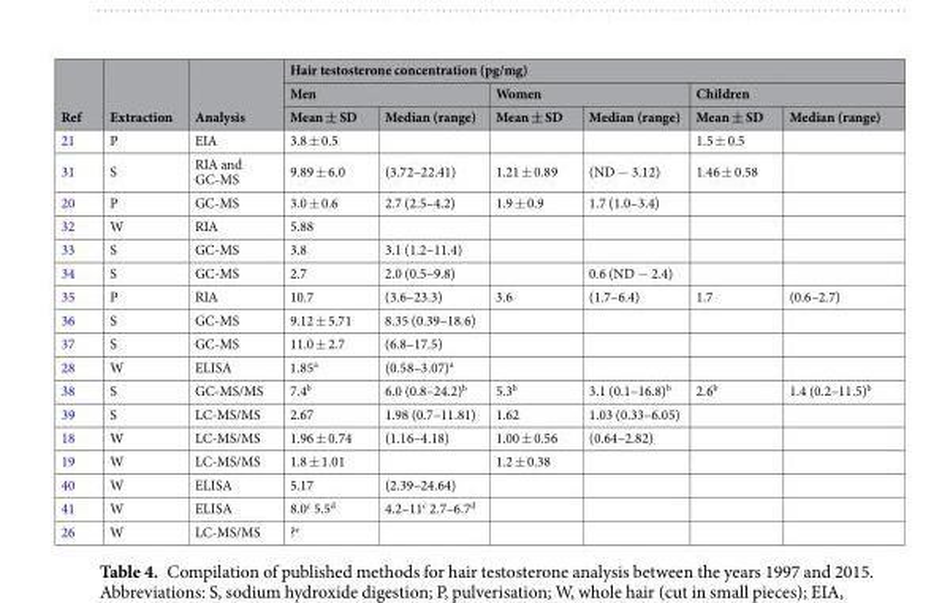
<table><thead><tr><td rowspan="3">Ref</td><td rowspan="3">Extraction</td><td rowspan="3">Analysis</td><td colspan="6">Hair testosterone concentration (pg/mg)</td></tr><tr><td colspan="2">Men</td><td colspan="2">Women</td><td colspan="2">Children</td></tr><tr><td>Mean ± SD</td><td>Median (range)</td><td>Mean ± SD</td><td>Median (range)</td><td>Mean ± SD</td><td>Median (range)</td></tr></thead><tbody><tr><td>21</td><td>P</td><td>EIA</td><td>3.8 ± 0.5</td><td></td><td></td><td></td><td>1.5 ± 0.5</td><td></td></tr><tr><td>31</td><td>S</td><td>RIA and GC-MS</td><td>9.89 ± 6.0</td><td>(3.72–22.41)</td><td>1.21 ± 0.89</td><td>(ND − 3.12)</td><td>1.46 ± 0.58</td><td></td></tr><tr><td>20</td><td>P</td><td>GC-MS</td><td>3.0 ± 0.6</td><td>2.7 (2.5–4.2)</td><td>1.9 ± 0.9</td><td>1.7 (1.0–3.4)</td><td></td><td></td></tr><tr><td>32</td><td>W</td><td>RIA</td><td>5.88</td><td></td><td></td><td></td><td></td><td></td></tr><tr><td>33</td><td>S</td><td>GC-MS</td><td>3.8</td><td>3.1 (1.2–11.4)</td><td></td><td></td><td></td><td></td></tr><tr><td>34</td><td>S</td><td>GC-MS</td><td>2.7</td><td>2.0 (0.5–9.8)</td><td></td><td>0.6 (ND − 2.4)</td><td></td><td></td></tr><tr><td>35</td><td>P</td><td>RIA</td><td>10.7</td><td>(3.6–23.3)</td><td>3.6</td><td>(1.7–6.4)</td><td>1.7</td><td>(0.6–2.7)</td></tr><tr><td>36</td><td>S</td><td>GC-MS</td><td>9.12 ± 5.71</td><td>8.35 (0.39–18.6)</td><td></td><td></td><td></td><td></td></tr><tr><td>37</td><td>S</td><td>GC-MS</td><td>11.0 ± 2.7</td><td>(6.8–17.5)</td><td></td><td></td><td></td><td></td></tr><tr><td>28</td><td>W</td><td>ELISA</td><td>1.85<sup>a</sup></td><td>(0.58–3.07)<sup>a</sup></td><td></td><td></td><td></td><td></td></tr><tr><td>38</td><td>S</td><td>GC-MS/MS</td><td>7.4<sup>b</sup></td><td>6.0 (0.8–24.2)<sup>b</sup></td><td>5.3<sup>b</sup></td><td>3.1 (0.1–16.8)<sup>b</sup></td><td>2.6<sup>b</sup></td><td>1.4 (0.2–11.5)<sup>b</sup></td></tr><tr><td>39</td><td>S</td><td>LC-MS/MS</td><td>2.67</td><td>1.98 (0.7–11.81)</td><td>1.62</td><td>1.03 (0.33–6.05)</td><td></td><td></td></tr><tr><td>18</td><td>W</td><td>LC-MS/MS</td><td>1.96 ± 0.74</td><td>(1.16–4.18)</td><td>1.00 ± 0.56</td><td>(0.64–2.82)</td><td></td><td></td></tr><tr><td>19</td><td>W</td><td>LC-MS/MS</td><td>1.8 ± 1.01</td><td></td><td>1.2 ± 0.38</td><td></td><td></td><td></td></tr><tr><td>40</td><td>W</td><td>ELISA</td><td>5.17</td><td>(2.39–24.64)</td><td></td><td></td><td></td><td></td></tr><tr><td>41</td><td>W</td><td>ELISA</td><td>8.0<sup>c</sup> 5.5<sup>d</sup></td><td>4.2–11<sup>c</sup> 2.7–6.7<sup>d</sup></td><td></td><td></td><td></td><td></td></tr><tr><td>26</td><td>W</td><td>LC-MS/MS</td><td>?<sup>e</sup></td><td></td><td></td><td></td><td></td><td></td></tr></tbody></table>